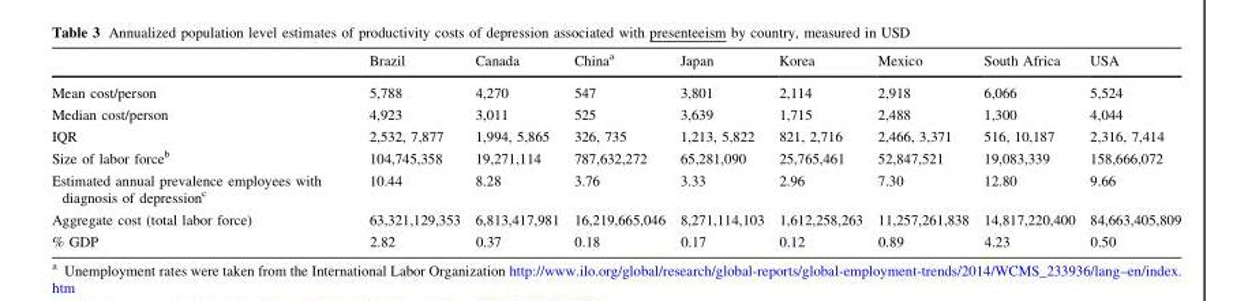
<table><thead><tr><td></td><td>Brazil</td><td>Canada</td><td>China<sup>a</sup></td><td>Japan</td><td>Korea</td><td>Mexico</td><td>South Africa</td><td>USA</td></tr></thead><tbody><tr><td>Mean cost/person</td><td>5,788</td><td>4,270</td><td>547</td><td>3,801</td><td>2,114</td><td>2,918</td><td>6,066</td><td>5,524</td></tr><tr><td>Median cost/person</td><td>4,923</td><td>3,011</td><td>525</td><td>3,639</td><td>1,715</td><td>2,488</td><td>1,300</td><td>4,044</td></tr><tr><td>IQR</td><td>2,532, 7,877</td><td>1,994, 5,865</td><td>326, 735</td><td>1,213, 5,822</td><td>821, 2,716</td><td>2,466, 3,371</td><td>516, 10,187</td><td>2,316, 7,414</td></tr><tr><td>Size of labor force<sup>b</sup></td><td>104,745,358</td><td>19,271,114</td><td>787,632,272</td><td>65,281,090</td><td>25,765,461</td><td>52,847,521</td><td>19,083,339</td><td>158,666,072</td></tr><tr><td>Estimated annual prevalence employees with diagnosis of depression<sup>c</sup></td><td>10.44</td><td>8.28</td><td>3.76</td><td>3.33</td><td>2.96</td><td>7.30</td><td>12.80</td><td>9.66</td></tr><tr><td>Aggregate cost (total labor force)</td><td>63,321,129,353</td><td>6,813,417,981</td><td>16,219,665,046</td><td>8,271,114,103</td><td>1,612,258,263</td><td>11,257,261,838</td><td>14,817,220,400</td><td>84,663,405,809</td></tr><tr><td>% GDP</td><td>2.82</td><td>0.37</td><td>0.18</td><td>0.17</td><td>0.12</td><td>0.89</td><td>4.23</td><td>0.50</td></tr></tbody></table>